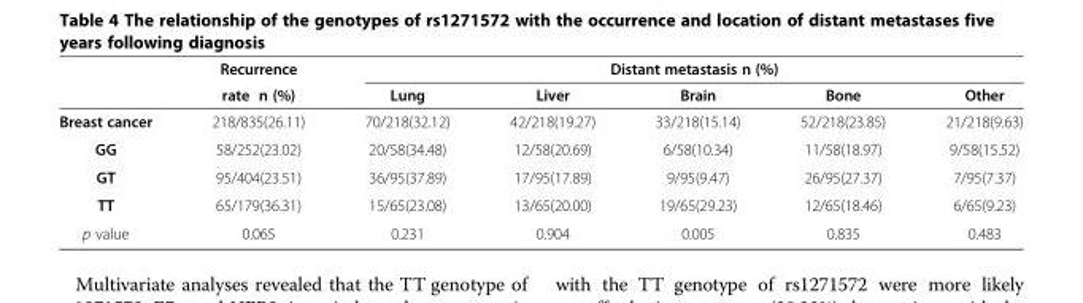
<table><thead><tr><td rowspan="2"></td><td rowspan="2">Recurrence rate n (%)</td><td colspan="5">Distant metastasis n (%)</td></tr><tr><td>Lung</td><td>Liver</td><td>Brain</td><td>Bone</td><td>Other</td></tr></thead><tbody><tr><td>Breast cancer</td><td>218/835(26.11)</td><td>70/218(32.12)</td><td>42/218(19.27)</td><td>33/218(15.14)</td><td>52/218(23.85)</td><td>21/218(9.63)</td></tr><tr><td>GG</td><td>58/252(23.02)</td><td>20/58(34.48)</td><td>12/58(20.69)</td><td>6/58(10.34)</td><td>11/58(18.97)</td><td>9/58(15.52)</td></tr><tr><td>GT</td><td>95/404(23.51)</td><td>36/95(37.89)</td><td>17/95(17.89)</td><td>9/95(9.47)</td><td>26/95(27.37)</td><td>7/95(7.37)</td></tr><tr><td>TT</td><td>65/179(36.31)</td><td>15/65(23.08)</td><td>13/65(20.00)</td><td>19/65(29.23)</td><td>12/65(18.46)</td><td>6/65(9.23)</td></tr><tr><td>p value</td><td>0.065</td><td>0.231</td><td>0.904</td><td>0.005</td><td>0.835</td><td>0.483</td></tr></tbody></table>